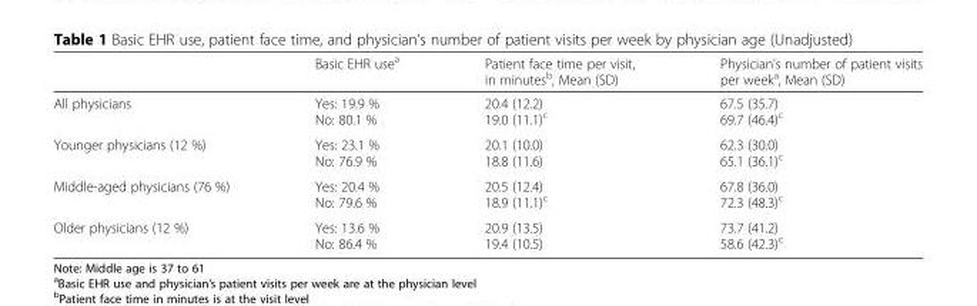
<table><thead><tr><td></td><td>Basic EHR use<sup>a</sup></td><td>Patient face time per visit, in minutes<sup>b</sup>, Mean (SD)</td><td>Physician’s number of patient visits per week<sup>a</sup>, Mean (SD)</td></tr></thead><tbody><tr><td>All physicians</td><td>Yes: 19.9 % No: 80.1 %</td><td>20.4 (12.2) 19.0 (11.1)<sup>c</sup></td><td>67.5 (35.7) 69.7 (46.4)<sup>c</sup></td></tr><tr><td>Younger physicians (12 %)</td><td>Yes: 23.1 % No: 76.9 %</td><td>20.1 (10.0) 18.8 (11.6)</td><td>62.3 (30.0) 65.1 (36.1)<sup>c</sup></td></tr><tr><td>Middle-aged physicians (76 %)</td><td>Yes: 20.4 % No: 79.6 %</td><td>20.5 (12.4) 18.9 (11.1)<sup>c</sup></td><td>67.8 (36.0) 72.3 (48.3)<sup>c</sup></td></tr><tr><td>Older physicians (12 %)</td><td>Yes: 13.6 % No: 86.4 %</td><td>20.9 (13.5) 19.4 (10.5)</td><td>73.7 (41.2) 58.6 (42.3)<sup>c</sup></td></tr></tbody></table>